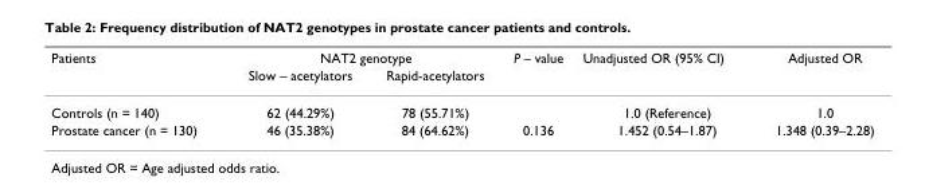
<table><thead><tr><td rowspan="2">Patients</td><td colspan="2">NAT2 genotype</td><td rowspan="2">P – value</td><td rowspan="2">Unadjusted OR (95% CI)</td><td rowspan="2">Adjusted OR</td></tr><tr><td>Slow – acetylators</td><td>Rapid-acetylators</td></tr></thead><tbody><tr><td>Controls (n = 140)</td><td>62 (44.29%)</td><td>78 (55.71%)</td><td></td><td>1.0 (Reference)</td><td>1.0</td></tr><tr><td>Prostate cancer (n = 130)</td><td>46 (35.38%)</td><td>84 (64.62%)</td><td>0.136</td><td>1.452 (0.54–1.87)</td><td>1.348 (0.39–2.28)</td></tr></tbody></table>